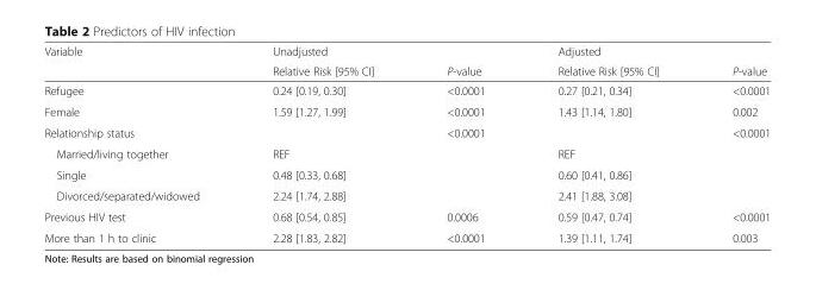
<table><thead><tr><td rowspan="2">Variable</td><td rowspan="2">Unadjusted Relative Risk [95% CI]</td><td rowspan="2">P-value</td><td rowspan="2">Adjusted Relative Risk [95% CI]</td><td rowspan="2">P-value</td></tr><tr></tr></thead><tbody><tr><td>Refugee</td><td>0.24 [0.19, 0.30]</td><td>&lt;0.0001</td><td>0.27 [0.21, 0.34]</td><td>&lt;0.0001</td></tr><tr><td>Female</td><td>1.59 [1.27, 1.99]</td><td>&lt;0.0001</td><td>1.43 [1.14, 1.80]</td><td>0.002</td></tr><tr><td>Relationship status</td><td></td><td>&lt;0.0001</td><td></td><td>&lt;0.0001</td></tr><tr><td>Married/living together</td><td>REF</td><td></td><td>REF</td><td></td></tr><tr><td>Single</td><td>0.48 [0.33, 0.68]</td><td></td><td>0.60 [0.41, 0.86]</td><td></td></tr><tr><td>Divorced/separated/widowed</td><td>2.24 [1.74, 2.88]</td><td></td><td>2.41 [1.88, 3.08]</td><td></td></tr><tr><td>Previous HIV test</td><td>0.68 [0.54, 0.85]</td><td>0.0006</td><td>0.59 [0.47, 0.74]</td><td>&lt;0.0001</td></tr><tr><td>More than 1 h to clinic</td><td>2.28 [1.83, 2.82]</td><td>&lt;0.0001</td><td>1.39 [1.11, 1.74]</td><td>0.003</td></tr></tbody></table>